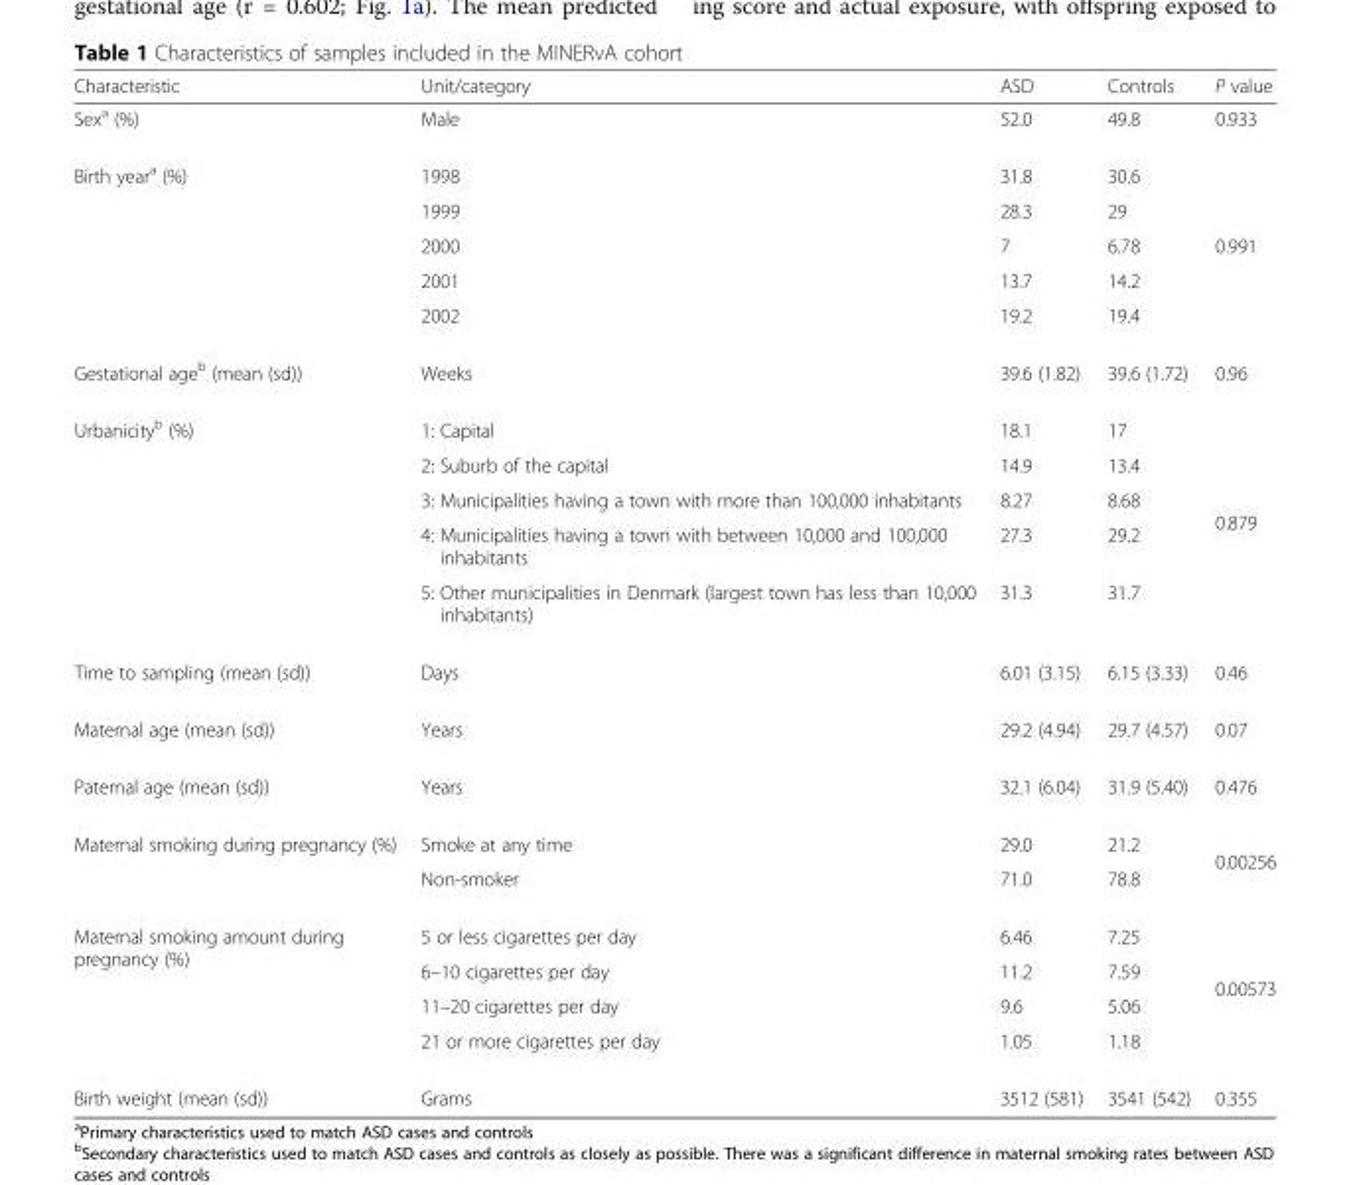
<table><thead><tr><td>Characteristic</td><td>Unit/category</td><td>ASD</td><td>Controls</td><td>P value</td></tr></thead><tbody><tr><td>Sex<sup>a</sup> (%)</td><td>Male</td><td>52.0</td><td>49.8</td><td>0.933</td></tr><tr><td rowspan="5">Birth year<sup>a</sup> (%)</td><td>1998</td><td>31.8</td><td>30.6</td><td rowspan="5">0.991</td></tr><tr><td>1999</td><td>28.3</td><td>29</td></tr><tr><td>2000</td><td>7</td><td>6.78</td></tr><tr><td>2001</td><td>13.7</td><td>14.2</td></tr><tr><td>2002</td><td>19.2</td><td>19.4</td></tr><tr><td>Gestational age<sup>b</sup> (mean (sd))</td><td>Weeks</td><td>39.6 (1.82)</td><td>39.6 (1.72)</td><td>0.96</td></tr><tr><td rowspan="5">Urbanicity<sup>b</sup> (%)</td><td>1: Capital</td><td>18.1</td><td>17</td><td rowspan="5">0.879</td></tr><tr><td>2: Suburb of the capital</td><td>14.9</td><td>13.4</td></tr><tr><td>3: Municipalities having a town with more than 100,000 inhabitants</td><td>8.27</td><td>8.68</td></tr><tr><td>4: Municipalities having a town with between 10,000 and 100,000 inhabitants</td><td>27.3</td><td>29.2</td></tr><tr><td>5: Other municipalities in Denmark (largest town has less than 10,000 inhabitants)</td><td>31.3</td><td>31.7</td></tr><tr><td>Time to sampling (mean (sd))</td><td>Days</td><td>6.01 (3.15)</td><td>6.15 (3.33)</td><td>0.46</td></tr><tr><td>Maternal age (mean (sd))</td><td>Years</td><td>29.2 (4.94)</td><td>29.7 (4.57)</td><td>0.07</td></tr><tr><td>Paternal age (mean (sd))</td><td>Years</td><td>32.1 (6.04)</td><td>31.9 (5.40)</td><td>0.476</td></tr><tr><td rowspan="2">Maternal smoking during pregnancy (%)</td><td>Smoke at any time</td><td>29.0</td><td>21.2</td><td rowspan="2">0.00256</td></tr><tr><td>Non-smoker</td><td>71.0</td><td>78.8</td></tr><tr><td rowspan="4">Maternal smoking amount during pregnancy (%)</td><td>5 or less cigarettes per day</td><td>6.46</td><td>7.25</td><td rowspan="4">0.00573</td></tr><tr><td>6–10 cigarettes per day</td><td>11.2</td><td>7.59</td></tr><tr><td>11–20 cigarettes per day</td><td>9.6</td><td>5.06</td></tr><tr><td>21 or more cigarettes per day</td><td>1.05</td><td>1.18</td></tr><tr><td>Birth weight (mean (sd))</td><td>Grams</td><td>3512 (581)</td><td>3541 (542)</td><td>0.355</td></tr></tbody></table>